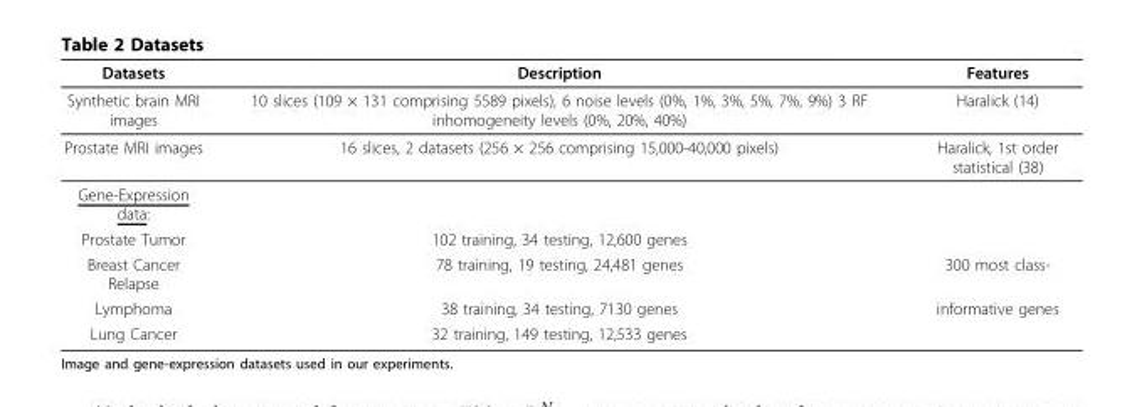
<table><thead><tr><td>Datasets</td><td>Description</td><td>Features</td></tr></thead><tbody><tr><td>Synthetic brain MRI images</td><td>10 slices (109 × 131 comprising 5589 pixels), 6 noise levels (0%, 1%, 3%, 5%, 7%, 9%) 3 RF inhomogeneity levels (0%, 20%, 40%)</td><td>Haralick (14)</td></tr><tr><td>Prostate MRI images</td><td>16 slices, 2 datasets (256 × 256 comprising 15,000-40,000 pixels)</td><td>Haralick, 1st order statistical (38)</td></tr><tr><td colspan="3">Gene-Expression data:</td></tr><tr><td>Prostate Tumor</td><td>102 training, 34 testing, 12,600 genes</td><td></td></tr><tr><td>Breast Cancer Relapse</td><td>78 training, 19 testing, 24,481 genes</td><td>300 most class-</td></tr><tr><td>Lymphoma</td><td>38 training, 34 testing, 7130 genes</td><td>informative genes</td></tr><tr><td>Lung Cancer</td><td>32 training, 149 testing, 12,533 genes</td><td></td></tr></tbody></table>